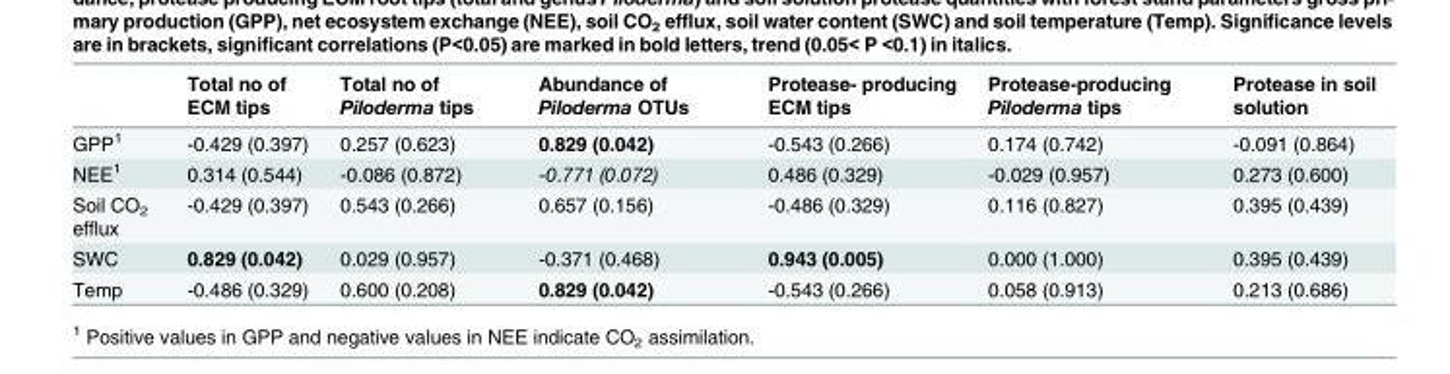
<table><thead><tr><td></td><td>Total no of ECM tips</td><td>Total no of Piloderma tips</td><td>Abundance of Piloderma OTUs</td><td>Protease- producing ECM tips</td><td>Protease-producing Piloderma tips</td><td>Protease in soil solution</td></tr></thead><tbody><tr><td>GPP<sup>1</sup></td><td>-0.429 (0.397)</td><td>0.257 (0.623)</td><td>0.829 (0.042)</td><td>-0.543 (0.266)</td><td>0.174 (0.742)</td><td>-0.091 (0.864)</td></tr><tr><td>NEE<sup>1</sup></td><td>0.314 (0.544)</td><td>-0.086 (0.872)</td><td>-0.771 (0.072)</td><td>0.486 (0.329)</td><td>-0.029 (0.957)</td><td>0.273 (0.600)</td></tr><tr><td>Soil CO<sub>2</sub> efflux</td><td>-0.429 (0.397)</td><td>0.543 (0.266)</td><td>0.657 (0.156)</td><td>-0.486 (0.329)</td><td>0.116 (0.827)</td><td>0.395 (0.439)</td></tr><tr><td>SWC</td><td>0.829 (0.042)</td><td>0.029 (0.957)</td><td>-0.371 (0.468)</td><td>0.943 (0.005)</td><td>0.000 (1.000)</td><td>0.395 (0.439)</td></tr><tr><td>Temp</td><td>-0.486 (0.329)</td><td>0.600 (0.208)</td><td>0.829 (0.042)</td><td>-0.543 (0.266)</td><td>0.058 (0.913)</td><td>0.213 (0.686)</td></tr></tbody></table>